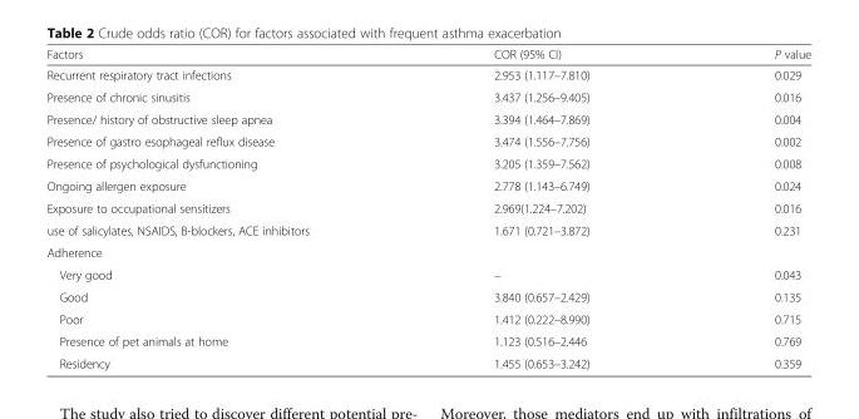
<table><thead><tr><td>Factors</td><td>COR (95% CI)</td><td>P value</td></tr></thead><tbody><tr><td>Recurrent respiratory tract infections</td><td>2.953 (1.117–7.810)</td><td>0.029</td></tr><tr><td>Presence of chronic sinusitis</td><td>3.437 (1.256–9.405)</td><td>0.016</td></tr><tr><td>Presence/ history of obstructive sleep apnea</td><td>3.394 (1.464–7.869)</td><td>0.004</td></tr><tr><td>Presence of gastro esophageal reflux disease</td><td>3.474 (1.556–7.756)</td><td>0.002</td></tr><tr><td>Presence of psychological dysfunctioning</td><td>3.205 (1.359–7.562)</td><td>0.008</td></tr><tr><td>Ongoing allergen exposure</td><td>2.778 (1.143–6.749)</td><td>0.024</td></tr><tr><td>Exposure to occupational sensitizers</td><td>2.969(1.224–7.202)</td><td>0.016</td></tr><tr><td>use of salicylates, NSAIDS, B-blockers, ACE inhibitors</td><td>1.671 (0.721–3.872)</td><td>0.231</td></tr><tr><td colspan="3">Adherence</td></tr><tr><td>Very good</td><td>–</td><td>0.043</td></tr><tr><td>Good</td><td>3.840 (0.657–2.429)</td><td>0.135</td></tr><tr><td>Poor</td><td>1.412 (0.222–8.990)</td><td>0.715</td></tr><tr><td>Presence of pet animals at home</td><td>1.123 (0.516–2.446</td><td>0.769</td></tr><tr><td>Residency</td><td>1.455 (0.653–3.242)</td><td>0.359</td></tr></tbody></table>